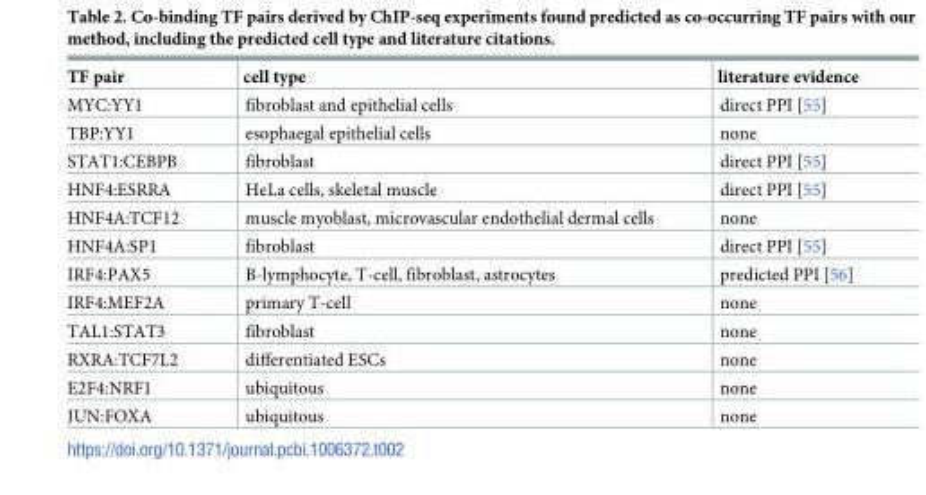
<table><thead><tr><td>TF pair</td><td>cell type</td><td>literature evidence</td></tr></thead><tbody><tr><td>MYC:YY1</td><td>fibroblast and epithelial cells</td><td>direct PPI [55]</td></tr><tr><td>TBP:YY1</td><td>esophaegal epithelial cells</td><td>none</td></tr><tr><td>STAT1:CEBPB</td><td>fibroblast</td><td>direct PPI [55]</td></tr><tr><td>HNF4:ESRRA</td><td>HeLa cells, skeletal muscle</td><td>direct PPI [55]</td></tr><tr><td>HNF4A:TCF12</td><td>muscle myoblast, microvascular endothelial dermal cells</td><td>none</td></tr><tr><td>HNF4A:SP1</td><td>fibroblast</td><td>direct PPI [55]</td></tr><tr><td>IRF4:PAX5</td><td>B-lymphocyte, T-cell, fibroblast, astrocytes</td><td>predicted PPI [56]</td></tr><tr><td>IRF4:MEF2A</td><td>primary T-cell</td><td>none</td></tr><tr><td>TAL1:STAT3</td><td>fibroblast</td><td>none</td></tr><tr><td>RXRA:TCF7L2</td><td>differentiated ESCs</td><td>none</td></tr><tr><td>E2F4:NRF1</td><td>ubiquitous</td><td>none</td></tr><tr><td>JUN:FOXA</td><td>ubiquitous</td><td>none</td></tr></tbody></table>